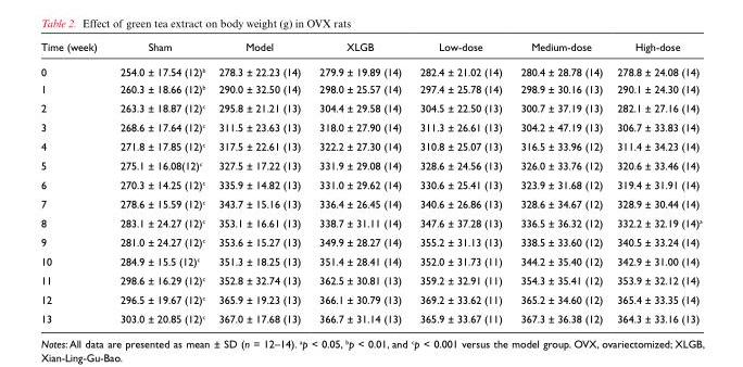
<table><thead><tr><td>Time (week)</td><td>Sham</td><td>Model</td><td>XLGB</td><td>Low-dose</td><td>Medium-dose</td><td>High-dose</td></tr></thead><tbody><tr><td>0</td><td>254.0 ± 17.54 (12)<sup>b</sup></td><td>278.3 ± 22.23 (14)</td><td>279.9 ± 19.89 (14)</td><td>282.4 ± 21.02 (14)</td><td>280.4 ± 28.78 (14)</td><td>278.8 ± 24.08 (14)</td></tr><tr><td>1</td><td>260.3 ± 18.66 (12)<sup>b</sup></td><td>290.0 ± 32.50 (14)</td><td>298.0 ± 25.57 (14)</td><td>297.4 ± 25.78 (14)</td><td>298.9 ± 30.16 (13)</td><td>290.1 ± 24.30 (14)</td></tr><tr><td>2</td><td>263.3 ± 18.87 (12)<sup>c</sup></td><td>295.8 ± 21.21 (13)</td><td>304.4 ± 29.58 (14)</td><td>304.5 ± 22.50 (13)</td><td>300.7 ± 37.19 (13)</td><td>282.1 ± 27.16 (14)</td></tr><tr><td>3</td><td>268.6 ± 17.64 (12)<sup>c</sup></td><td>311.5 ± 23.63 (13)</td><td>318.0 ± 27.90 (14)</td><td>311.3 ± 26.61 (13)</td><td>304.2 ± 47.19 (13)</td><td>306.7 ± 33.83 (14)</td></tr><tr><td>4</td><td>271.8 ± 17.85 (12)<sup>c</sup></td><td>317.5 ± 22.61 (13)</td><td>322.2 ± 27.30 (14)</td><td>310.8 ± 25.07 (13)</td><td>316.5 ± 33.96 (12)</td><td>311.4 ± 34.23 (14)</td></tr><tr><td>5</td><td>275.1 ± 16.08(12)<sup>c</sup></td><td>327.5 ± 17.22 (13)</td><td>331.9 ± 29.08 (14)</td><td>328.6 ± 24.56 (13)</td><td>326.0 ± 33.76 (12)</td><td>320.6 ± 33.46 (14)</td></tr><tr><td>6</td><td>270.3 ± 14.25 (12)<sup>c</sup></td><td>335.9 ± 14.82 (13)</td><td>331.0 ± 29.62 (14)</td><td>330.6 ± 25.41 (13)</td><td>323.9 ± 31.68 (12)</td><td>319.4 ± 31.91 (14)</td></tr><tr><td>7</td><td>278.6 ± 15.59 (12)<sup>c</sup></td><td>343.7 ± 15.16 (13)</td><td>336.4 ± 26.45 (14)</td><td>340.6 ± 26.86 (13)</td><td>328.6 ± 34.67 (12)</td><td>328.9 ± 30.44 (14)</td></tr><tr><td>8</td><td>283.1 ± 24.27 (12)<sup>c</sup></td><td>353.1 ± 16.61 (13)</td><td>338.7 ± 31.11 (14)</td><td>347.6 ± 37.28 (13)</td><td>336.5 ± 36.32 (12)</td><td>332.2 ± 32.19 (14)<sup>a</sup></td></tr><tr><td>9</td><td>281.0 ± 24.27 (12)<sup>c</sup></td><td>353.6 ± 15.27 (13)</td><td>349.9 ± 28.27 (14)</td><td>355.2 ± 31.13 (13)</td><td>338.5 ± 33.60 (12)</td><td>340.5 ± 33.24 (14)</td></tr><tr><td>10</td><td>284.9 ± 15.5 (12)<sup>c</sup></td><td>351.3 ± 18.25 (13)</td><td>351.4 ± 28.41 (14)</td><td>352.0 ± 31.73 (11)</td><td>344.2 ± 35.40 (12)</td><td>342.9 ± 31.00 (14)</td></tr><tr><td>11</td><td>298.6 ± 16.29 (12)<sup>c</sup></td><td>352.8 ± 32.74 (13)</td><td>362.5 ± 30.81 (13)</td><td>359.2 ± 32.91 (11)</td><td>354.3 ± 35.41 (12)</td><td>353.9 ± 32.12 (14)</td></tr><tr><td>12</td><td>296.5 ± 19.67 (12)<sup>c</sup></td><td>365.9 ± 19.23 (13)</td><td>366.1 ± 30.79 (13)</td><td>369.2 ± 33.62 (11)</td><td>365.2 ± 34.60 (12)</td><td>365.4 ± 33.35 (14)</td></tr><tr><td>13</td><td>303.0 ± 20.85 (12)<sup>c</sup></td><td>367.0 ± 17.68 (13)</td><td>366.7 ± 31.14 (13)</td><td>365.9 ± 33.67 (11)</td><td>367.3 ± 36.38 (12)</td><td>364.3 ± 33.16 (13)</td></tr></tbody></table>